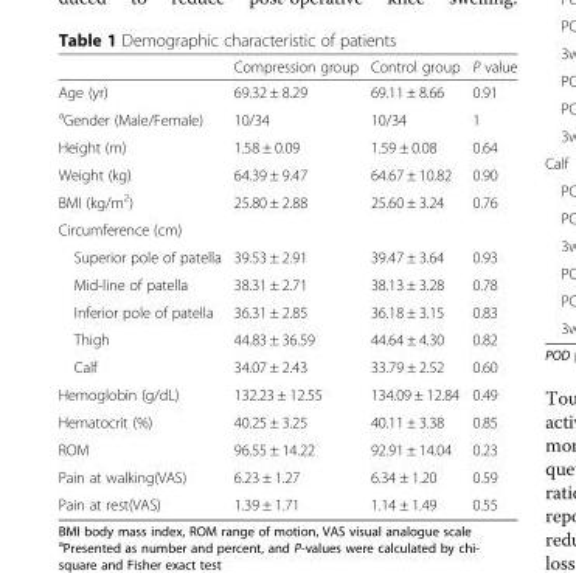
<table><thead><tr><td></td><td>Compression group</td><td>Control group</td><td>P value</td></tr></thead><tbody><tr><td>Age (yr)</td><td>69.32 ± 8.29</td><td>69.11 ± 8.66</td><td>0.91</td></tr><tr><td><sup>a</sup>Gender (Male/Female)</td><td>10/34</td><td>10/34</td><td>1</td></tr><tr><td>Height (m)</td><td>1.58 ± 0.09</td><td>1.59 ± 0.08</td><td>0.64</td></tr><tr><td>Weight (kg)</td><td>64.39 ± 9.47</td><td>64.67 ± 10.82</td><td>0.90</td></tr><tr><td>BMI (kg/m<sup>2</sup>)</td><td>25.80 ± 2.88</td><td>25.60 ± 3.24</td><td>0.76</td></tr><tr><td colspan="4">Circumference (cm)</td></tr><tr><td>Superior pole of patella</td><td>39.53 ± 2.91</td><td>39.47 ± 3.64</td><td>0.93</td></tr><tr><td>Mid-line of patella</td><td>38.31 ± 2.71</td><td>38.13 ± 3.28</td><td>0.78</td></tr><tr><td>Inferior pole of patella</td><td>36.31 ± 2.85</td><td>36.18 ± 3.15</td><td>0.83</td></tr><tr><td>Thigh</td><td>44.83 ± 36.59</td><td>44.64 ± 4.30</td><td>0.82</td></tr><tr><td>Calf</td><td>34.07 ± 2.43</td><td>33.79 ± 2.52</td><td>0.60</td></tr><tr><td>Hemoglobin (g/dL)</td><td>132.23 ± 12.55</td><td>134.09 ± 12.84</td><td>0.49</td></tr><tr><td>Hematocrit (%)</td><td>40.25 ± 3.25</td><td>40.11 ± 3.38</td><td>0.85</td></tr><tr><td>ROM</td><td>96.55 ± 14.22</td><td>92.91 ± 14.04</td><td>0.23</td></tr><tr><td>Pain at walking(VAS)</td><td>6.23 ± 1.27</td><td>6.34 ± 1.20</td><td>0.59</td></tr><tr><td>Pain at rest(VAS)</td><td>1.39 ± 1.71</td><td>1.14 ± 1.49</td><td>0.55</td></tr></tbody></table>